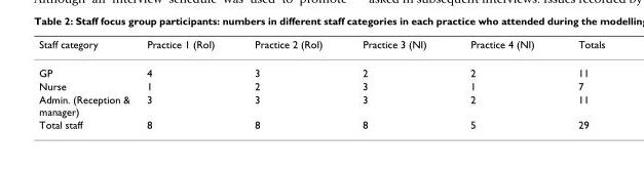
<table><thead><tr><td>Staff category</td><td>Practice 1 (RoI)</td><td>Practice 2 (RoI)</td><td>Practice 3 (NI)</td><td>Practice 4 (NI)</td><td>Totals</td></tr></thead><tbody><tr><td>GP</td><td>4</td><td>3</td><td>2</td><td>2</td><td>11</td></tr><tr><td>Nurse</td><td>1</td><td>2</td><td>3</td><td>1</td><td>7</td></tr><tr><td>Admin. (Reception &amp; manager)</td><td>3</td><td>3</td><td>3</td><td>2</td><td>11</td></tr><tr><td>Total staff</td><td>8</td><td>8</td><td>8</td><td>5</td><td>29</td></tr></tbody></table>